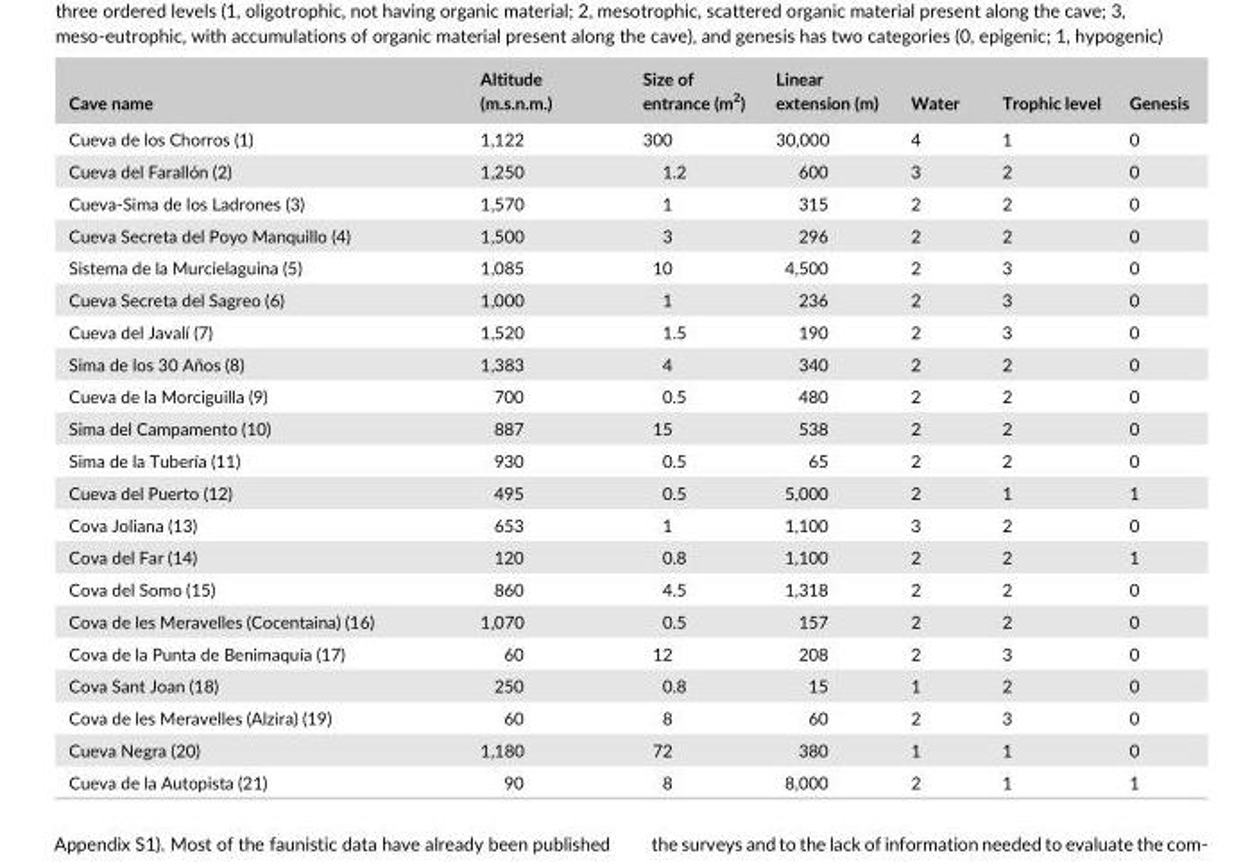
<table><thead><tr><td>Cave name</td><td>Altitude (m.s.n.m.)</td><td>Size of entrance (m<sup>2</sup>)</td><td>Linear extension (m)</td><td>Water</td><td>Trophic level</td><td>Genesis</td></tr></thead><tbody><tr><td>Cueva de los Chorros (1)</td><td>1,122</td><td>300</td><td>30,000</td><td>4</td><td>1</td><td>0</td></tr><tr><td>Cueva del Farallón (2)</td><td>1,250</td><td>1.2</td><td>600</td><td>3</td><td>2</td><td>0</td></tr><tr><td>Cueva- Sima de los Ladrones (3)</td><td>1,570</td><td>1</td><td>315</td><td>2</td><td>2</td><td>0</td></tr><tr><td>Cueva Secreta del Poyo Manquillo (4)</td><td>1,500</td><td>3</td><td>296</td><td>2</td><td>2</td><td>0</td></tr><tr><td>Sistema de la Murcielaguina (5)</td><td>1,085</td><td>10</td><td>4,500</td><td>2</td><td>3</td><td>0</td></tr><tr><td>Cueva Secreta del Sagreo (6)</td><td>1,000</td><td>1</td><td>236</td><td>2</td><td>3</td><td>0</td></tr><tr><td>Cueva del Javalí (7)</td><td>1,520</td><td>1.5</td><td>190</td><td>2</td><td>3</td><td>0</td></tr><tr><td>Sima de los 30 Años (8)</td><td>1,383</td><td>4</td><td>340</td><td>2</td><td>2</td><td>0</td></tr><tr><td>Cueva de la Morciguilla (9)</td><td>700</td><td>0.5</td><td>480</td><td>2</td><td>2</td><td>0</td></tr><tr><td>Sima del Campamento (10)</td><td>887</td><td>15</td><td>538</td><td>2</td><td>2</td><td>0</td></tr><tr><td>Sima de la Tubería (11)</td><td>930</td><td>0.5</td><td>65</td><td>2</td><td>2</td><td>0</td></tr><tr><td>Cueva del Puerto (12)</td><td>495</td><td>0.5</td><td>5,000</td><td>2</td><td>1</td><td>1</td></tr><tr><td>Cova Joliana (13)</td><td>653</td><td>1</td><td>1,100</td><td>3</td><td>2</td><td>0</td></tr><tr><td>Cova del Far (14)</td><td>120</td><td>0.8</td><td>1,100</td><td>2</td><td>2</td><td>1</td></tr><tr><td>Cova del Somo (15)</td><td>860</td><td>4.5</td><td>1,318</td><td>2</td><td>2</td><td>0</td></tr><tr><td>Cova de les Meravelles (Cocentaina) (16)</td><td>1,070</td><td>0.5</td><td>157</td><td>2</td><td>2</td><td>0</td></tr><tr><td>Cova de la Punta de Benimaquía (17)</td><td>60</td><td>12</td><td>208</td><td>2</td><td>3</td><td>0</td></tr><tr><td>Cova Sant Joan (18)</td><td>250</td><td>0.8</td><td>15</td><td>1</td><td>2</td><td>0</td></tr><tr><td>Cova de les Meravelles (Alzira) (19)</td><td>60</td><td>8</td><td>60</td><td>2</td><td>3</td><td>0</td></tr><tr><td>Cueva Negra (20)</td><td>1,180</td><td>72</td><td>380</td><td>1</td><td>1</td><td>0</td></tr><tr><td>Cueva de la Autopista (21)</td><td>90</td><td>8</td><td>8,000</td><td>2</td><td>1</td><td>1</td></tr></tbody></table>